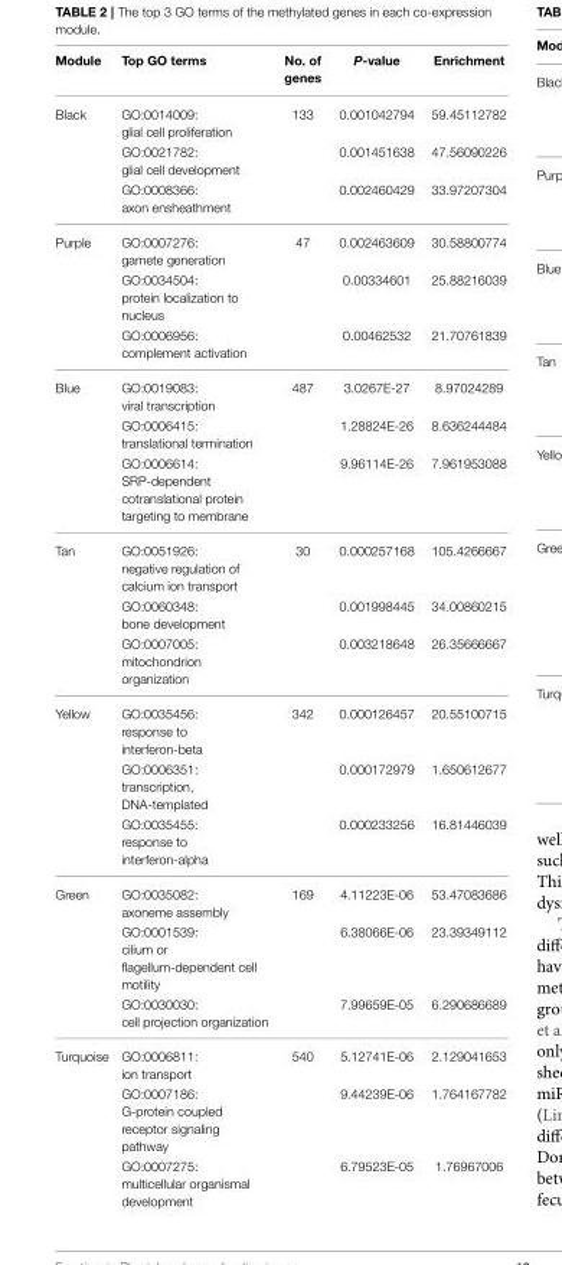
<table><thead><tr><td>Module</td><td>Top GO terms</td><td>No. of genes</td><td>P-value</td><td>Enrichment</td></tr></thead><tbody><tr><td rowspan="3">Black</td><td>GO:0014009: glial cell proliferation</td><td>133</td><td>0.001042794</td><td>59.45112782</td></tr><tr><td>GO:0021782: glial cell development</td><td></td><td>0.001451638</td><td>47.56090226</td></tr><tr><td>GO:0008366: axon ensheathment</td><td></td><td>0.002460429</td><td>33.97207304</td></tr><tr><td rowspan="3">Purple</td><td>GO:0007276: gamete generation</td><td>47</td><td>0.002463609</td><td>30.58800774</td></tr><tr><td>GO:0034504: protein localization to nucleus</td><td></td><td>0.00334601</td><td>25.88216039</td></tr><tr><td>GO:0006956: complement activation</td><td></td><td>0.00462532</td><td>21.70761839</td></tr><tr><td rowspan="3">Blue</td><td>GO:0019083: viral transcription</td><td>487</td><td>3.0267E-27</td><td>8.97024289</td></tr><tr><td>GO:0006415: translational termination</td><td></td><td>1.28824E-26</td><td>8.636244484</td></tr><tr><td>GO:0006614: SRP-dependent cotranslational protein targeting to membrane</td><td></td><td>9.96114E-26</td><td>7.961953088</td></tr><tr><td rowspan="3">Tan</td><td>GO:0051926: negative regulation of calcium ion transport</td><td>30</td><td>0.000257168</td><td>105.4266667</td></tr><tr><td>GO:0060348: bone development</td><td></td><td>0.001998445</td><td>34.00860215</td></tr><tr><td>GO:0007005: mitochondrion organization</td><td></td><td>0.003218648</td><td>26.35666667</td></tr><tr><td rowspan="3">Yellow</td><td>GO:0035456: response to interferon-beta</td><td>342</td><td>0.000126457</td><td>20.55100715</td></tr><tr><td>GO:0006351: transcription, DNA-templated</td><td></td><td>0.000172979</td><td>1.650612677</td></tr><tr><td>GO:0035455: response to interferon-alpha</td><td></td><td>0.000233256</td><td>16.81446039</td></tr><tr><td rowspan="3">Green</td><td>GO:0035082: axoneme assembly</td><td>169</td><td>4.11223E-06</td><td>53.47083686</td></tr><tr><td>GO:0001539: cilium or flagellum-dependent cell motility</td><td></td><td>6.38066E-06</td><td>23.39349112</td></tr><tr><td>GO:0030030: cell projection organization</td><td></td><td>7.99659E-05</td><td>6.290686689</td></tr><tr><td rowspan="3">Turquoise</td><td>GO:0006811: ion transport</td><td>540</td><td>5.12741E-06</td><td>2.129041653</td></tr><tr><td>GO:0007186: G-protein coupled receptor signaling pathway</td><td></td><td>9.44239E-06</td><td>1.764167782</td></tr><tr><td>GO:0007275: multicellular organismal development</td><td></td><td>6.79523E-05</td><td>1.76967006</td></tr></tbody></table>